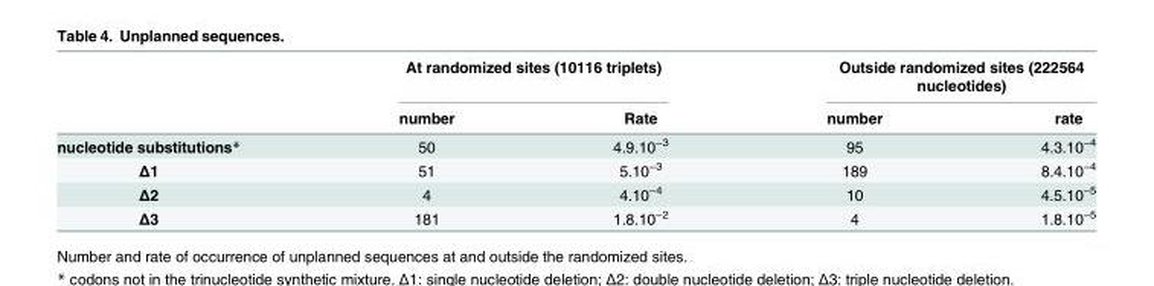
<table><thead><tr><td rowspan="2"></td><td colspan="2">At randomized sites (10116 triplets)</td><td colspan="2">Outside randomized sites (222564 nucleotides)</td></tr><tr><td>number</td><td>Rate</td><td>number</td><td>rate</td></tr></thead><tbody><tr><td>nucleotide substitutions*</td><td>50</td><td>4.9.10<sup>−3</sup></td><td>95</td><td>4.3.10<sup>−4</sup></td></tr><tr><td>Δ1</td><td>51</td><td>5.10<sup>−3</sup></td><td>189</td><td>8.4.10<sup>−4</sup></td></tr><tr><td>Δ2</td><td>4</td><td>4.10<sup>−4</sup></td><td>10</td><td>4.5.10<sup>−5</sup></td></tr><tr><td>Δ3</td><td>181</td><td>1.8.10<sup>−2</sup></td><td>4</td><td>1.8.10<sup>−5</sup></td></tr></tbody></table>